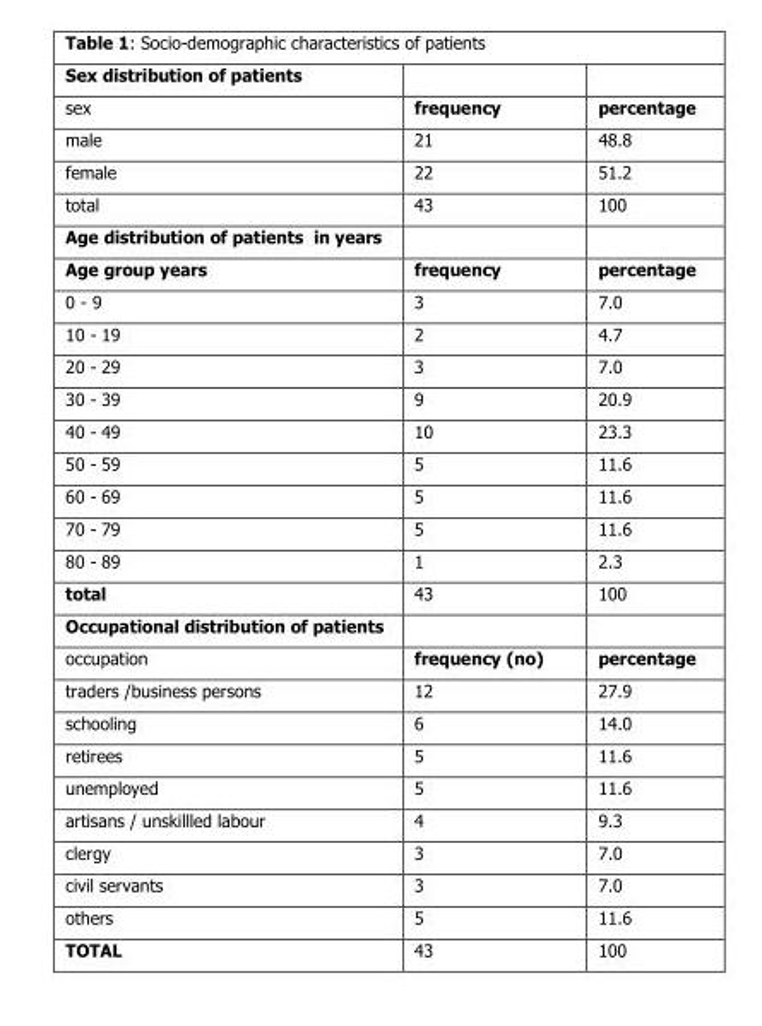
<table><tbody><tr><td colspan="3">Sex distribution of patients</td></tr><tr><td>sex</td><td>frequency</td><td>percentage</td></tr><tr><td>male</td><td>21</td><td>48.8</td></tr><tr><td>female</td><td>22</td><td>51.2</td></tr><tr><td>total</td><td>43</td><td>100</td></tr><tr><td colspan="3">Age distribution of patients in years</td></tr><tr><td>Age group years</td><td>frequency</td><td>percentage</td></tr><tr><td>0 - 9</td><td>3</td><td>7.0</td></tr><tr><td>10 - 19</td><td>2</td><td>4.7</td></tr><tr><td>20 - 29</td><td>3</td><td>7.0</td></tr><tr><td>30 - 39</td><td>9</td><td>20.9</td></tr><tr><td>40 - 49</td><td>10</td><td>23.3</td></tr><tr><td>50 - 59</td><td>5</td><td>11.6</td></tr><tr><td>60 - 69</td><td>5</td><td>11.6</td></tr><tr><td>70 - 79</td><td>5</td><td>11.6</td></tr><tr><td>80 - 89</td><td>1</td><td>2.3</td></tr><tr><td>total</td><td>43</td><td>100</td></tr><tr><td colspan="3">Occupational distribution of patients</td></tr><tr><td>occupation</td><td>frequency (no)</td><td>percentage</td></tr><tr><td>traders /business persons</td><td>12</td><td>27.9</td></tr><tr><td>schooling</td><td>6</td><td>14.0</td></tr><tr><td>retirees</td><td>5</td><td>11.6</td></tr><tr><td>unemployed</td><td>5</td><td>11.6</td></tr><tr><td>artisans / unskillled labour</td><td>4</td><td>9.3</td></tr><tr><td>clergy</td><td>3</td><td>7.0</td></tr><tr><td>civil servants</td><td>3</td><td>7.0</td></tr><tr><td>others</td><td>5</td><td>11.6</td></tr><tr><td>TOTAL</td><td>43</td><td>100</td></tr></tbody></table>